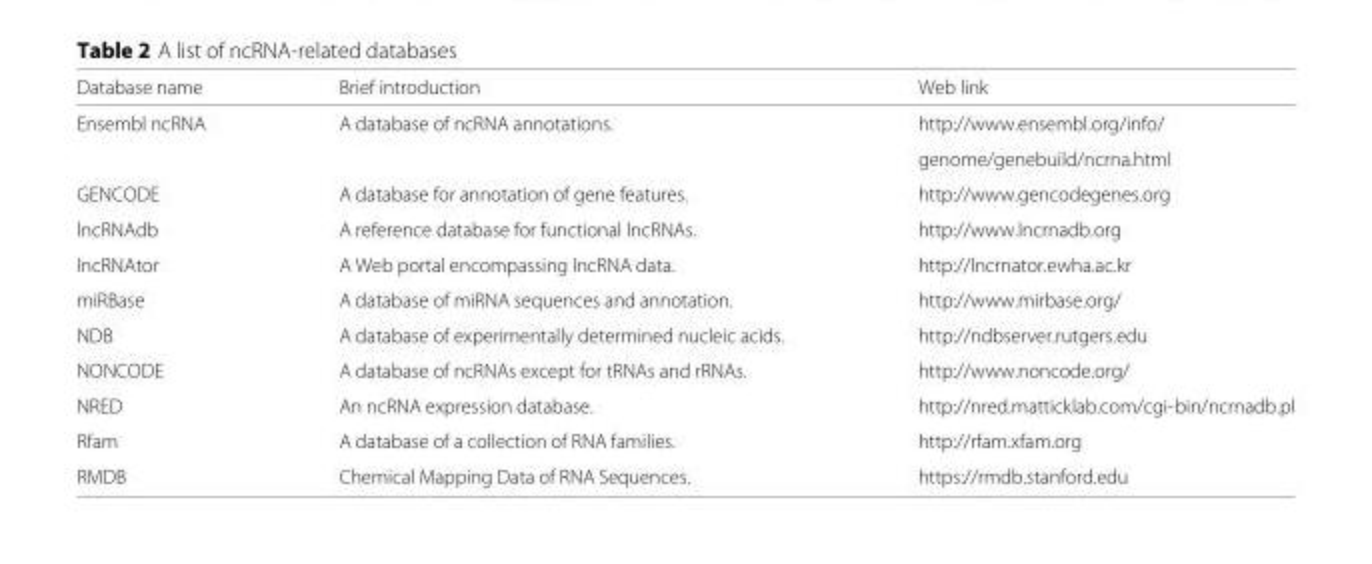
<table><thead><tr><td>Database name</td><td>Brief introduction</td><td>Web link</td></tr></thead><tbody><tr><td>Ensembl ncRNA</td><td>A database of ncRNA annotations.</td><td>http://www.ensembl.org/info/ genome/genebuild/ncrna.html</td></tr><tr><td>GENCODE</td><td>A database for annotation of gene features.</td><td>http://www.gencodegenes.org</td></tr><tr><td>lncRNAdb</td><td>A reference database for functional lncRNAs.</td><td>http://www.lncrnadb.org</td></tr><tr><td>lncRNAtor</td><td>A Web portal encompassing lncRNA data.</td><td>http://lncrnator.ewha.ac.kr</td></tr><tr><td>miRBase</td><td>A database of miRNA sequences and annotation.</td><td>http://www.mirbase.org/</td></tr><tr><td>NDB</td><td>A database of experimentally determined nucleic acids.</td><td>http://ndbserver.rutgers.edu</td></tr><tr><td>NONCODE</td><td>A database of ncRNAs except for tRNAs and rRNAs.</td><td>http://www.noncode.org/</td></tr><tr><td>NRED</td><td>An ncRNA expression database.</td><td>http://nred.matticklab.com/cgi-bin/ncrnadb.pl</td></tr><tr><td>Rfam</td><td>A database of a collection of RNA families.</td><td>http://rfam.xfam.org</td></tr><tr><td>RMDB</td><td>Chemical Mapping Data of RNA Sequences.</td><td>https://rmdb.stanford.edu</td></tr></tbody></table>